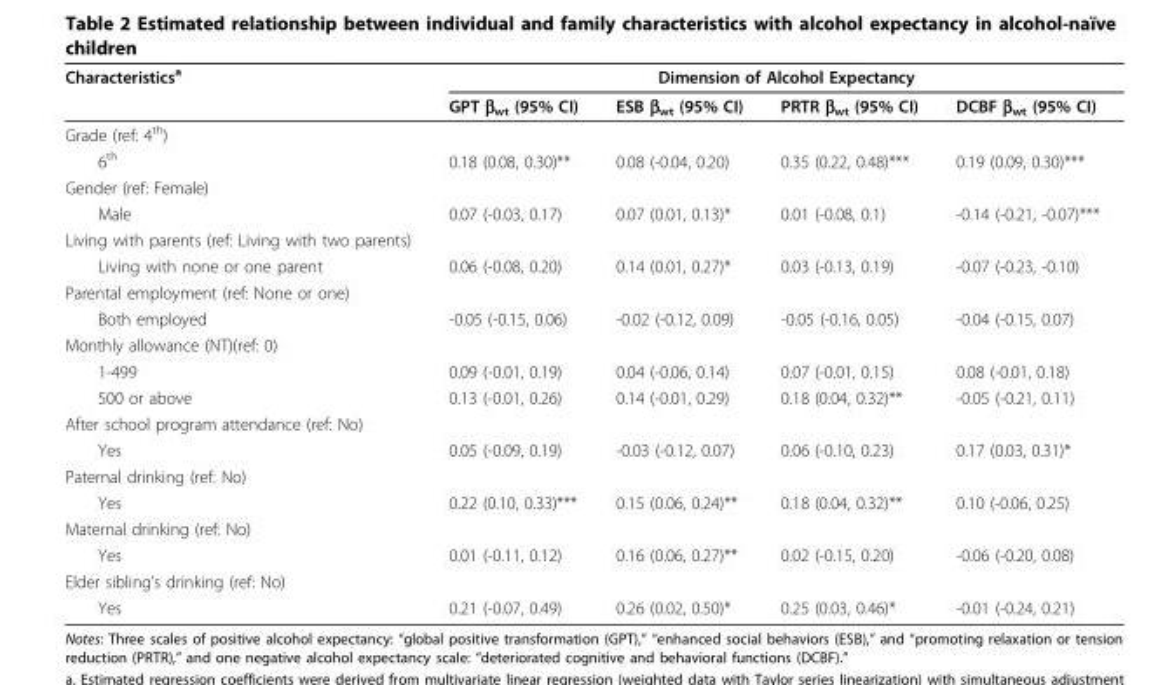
<table><thead><tr><td rowspan="2">Characteristics<sup>a</sup></td><td colspan="4">Dimension of Alcohol Expectancy</td></tr><tr><td>GPT β<sub>wt</sub> (95% CI)</td><td>ESB β<sub>wt</sub> (95% CI)</td><td>PRTR β<sub>wt</sub> (95% CI)</td><td>DCBF β<sub>wt</sub> (95% CI)</td></tr></thead><tbody><tr><td colspan="5">Grade (ref: 4<sup>th</sup>)</td></tr><tr><td>6<sup>th</sup></td><td>0.18 (0.08, 0.30)**</td><td>0.08 (-0.04, 0.20)</td><td>0.35 (0.22, 0.48)***</td><td>0.19 (0.09, 0.30)***</td></tr><tr><td colspan="5">Gender (ref: Female)</td></tr><tr><td>Male</td><td>0.07 (-0.03, 0.17)</td><td>0.07 (0.01, 0.13)*</td><td>0.01 (-0.08, 0.1)</td><td>-0.14 (-0.21, -0.07)***</td></tr><tr><td colspan="5">Living with parents (ref: Living with two parents)</td></tr><tr><td>Living with none or one parent</td><td>0.06 (-0.08, 0.20)</td><td>0.14 (0.01, 0.27)*</td><td>0.03 (-0.13, 0.19)</td><td>-0.07 (-0.23, -0.10)</td></tr><tr><td colspan="5">Parental employment (ref: None or one)</td></tr><tr><td>Both employed</td><td>-0.05 (-0.15, 0.06)</td><td>-0.02 (-0.12, 0.09)</td><td>-0.05 (-0.16, 0.05)</td><td>-0.04 (-0.15, 0.07)</td></tr><tr><td colspan="5">Monthly allowance (NT)(ref: 0)</td></tr><tr><td>1-499</td><td>0.09 (-0.01, 0.19)</td><td>0.04 (-0.06, 0.14)</td><td>0.07 (-0.01, 0.15)</td><td>0.08 (-0.01, 0.18)</td></tr><tr><td>500 or above</td><td>0.13 (-0.01, 0.26)</td><td>0.14 (-0.01, 0.29)</td><td>0.18 (0.04, 0.32)**</td><td>-0.05 (-0.21, 0.11)</td></tr><tr><td colspan="5">After school program attendance (ref: No)</td></tr><tr><td>Yes</td><td>0.05 (-0.09, 0.19)</td><td>-0.03 (-0.12, 0.07)</td><td>0.06 (-0.10, 0.23)</td><td>0.17 (0.03, 0.31)*</td></tr><tr><td colspan="5">Paternal drinking (ref: No)</td></tr><tr><td>Yes</td><td>0.22 (0.10, 0.33)***</td><td>0.15 (0.06, 0.24)**</td><td>0.18 (0.04, 0.32)**</td><td>0.10 (-0.06, 0.25)</td></tr><tr><td colspan="5">Maternal drinking (ref: No)</td></tr><tr><td>Yes</td><td>0.01 (-0.11, 0.12)</td><td>0.16 (0.06, 0.27)**</td><td>0.02 (-0.15, 0.20)</td><td>-0.06 (-0.20, 0.08)</td></tr><tr><td colspan="5">Elder sibling’s drinking (ref: No)</td></tr><tr><td>Yes</td><td>0.21 (-0.07, 0.49)</td><td>0.26 (0.02, 0.50)*</td><td>0.25 (0.03, 0.46)*</td><td>-0.01 (-0.24, 0.21)</td></tr></tbody></table>